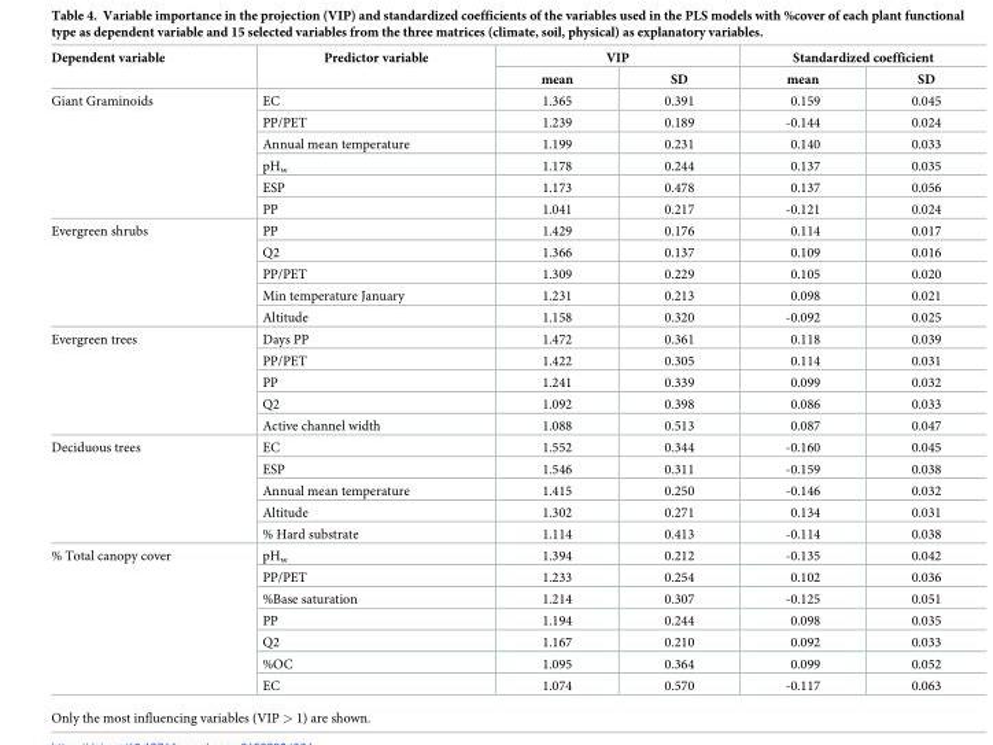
<table><thead><tr><td rowspan="2">Dependent variable</td><td rowspan="2">Predictor variable</td><td colspan="2">VIP</td><td colspan="2">Standardized coefficient</td></tr><tr><td>mean</td><td>SD</td><td>mean</td><td>SD</td></tr></thead><tbody><tr><td rowspan="6">Giant Graminoids</td><td>EC</td><td>1.365</td><td>0.391</td><td>0.159</td><td>0.045</td></tr><tr><td>PP/PET</td><td>1.239</td><td>0.189</td><td>-0.144</td><td>0.024</td></tr><tr><td>Annual mean temperature</td><td>1.199</td><td>0.231</td><td>0.140</td><td>0.033</td></tr><tr><td>pH<sub>w</sub></td><td>1.178</td><td>0.244</td><td>0.137</td><td>0.035</td></tr><tr><td>ESP</td><td>1.173</td><td>0.478</td><td>0.137</td><td>0.056</td></tr><tr><td>PP</td><td>1.041</td><td>0.217</td><td>-0.121</td><td>0.024</td></tr><tr><td rowspan="5">Evergreen shrubs</td><td>PP</td><td>1.429</td><td>0.176</td><td>0.114</td><td>0.017</td></tr><tr><td>Q2</td><td>1.366</td><td>0.137</td><td>0.109</td><td>0.016</td></tr><tr><td>PP/PET</td><td>1.309</td><td>0.229</td><td>0.105</td><td>0.020</td></tr><tr><td>Min temperature January</td><td>1.231</td><td>0.213</td><td>0.098</td><td>0.021</td></tr><tr><td>Altitude</td><td>1.158</td><td>0.320</td><td>-0.092</td><td>0.025</td></tr><tr><td rowspan="5">Evergreen trees</td><td>Days PP</td><td>1.472</td><td>0.361</td><td>0.118</td><td>0.039</td></tr><tr><td>PP/PET</td><td>1.422</td><td>0.305</td><td>0.114</td><td>0.031</td></tr><tr><td>PP</td><td>1.241</td><td>0.339</td><td>0.099</td><td>0.032</td></tr><tr><td>Q2</td><td>1.092</td><td>0.398</td><td>0.086</td><td>0.033</td></tr><tr><td>Active channel width</td><td>1.088</td><td>0.513</td><td>0.087</td><td>0.047</td></tr><tr><td rowspan="5">Deciduous trees</td><td>EC</td><td>1.552</td><td>0.344</td><td>-0.160</td><td>0.045</td></tr><tr><td>ESP</td><td>1.546</td><td>0.311</td><td>-0.159</td><td>0.038</td></tr><tr><td>Annual mean temperature</td><td>1.415</td><td>0.250</td><td>-0.146</td><td>0.032</td></tr><tr><td>Altitude</td><td>1.302</td><td>0.271</td><td>0.134</td><td>0.031</td></tr><tr><td>% Hard substrate</td><td>1.114</td><td>0.413</td><td>-0.114</td><td>0.038</td></tr><tr><td rowspan="7">% Total canopy cover</td><td>pH<sub>w</sub></td><td>1.394</td><td>0.212</td><td>-0.135</td><td>0.042</td></tr><tr><td>PP/PET</td><td>1.233</td><td>0.254</td><td>0.102</td><td>0.036</td></tr><tr><td>%Base saturation</td><td>1.214</td><td>0.307</td><td>-0.125</td><td>0.051</td></tr><tr><td>PP</td><td>1.194</td><td>0.244</td><td>0.098</td><td>0.035</td></tr><tr><td>Q2</td><td>1.167</td><td>0.210</td><td>0.092</td><td>0.033</td></tr><tr><td>%OC</td><td>1.095</td><td>0.364</td><td>0.099</td><td>0.052</td></tr><tr><td>EC</td><td>1.074</td><td>0.570</td><td>-0.117</td><td>0.063</td></tr></tbody></table>